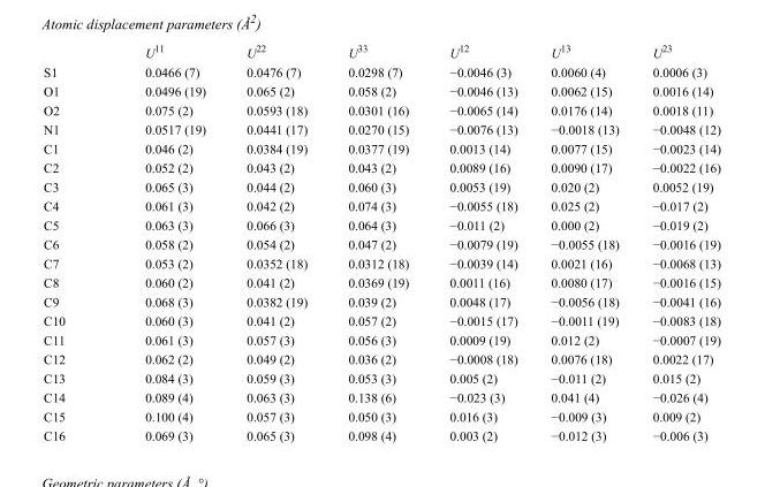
<table><thead><tr><td></td><td>U<sup>11</sup></td><td>U<sup>22</sup></td><td>U<sup>33</sup></td><td>U<sup>12</sup></td><td>U<sup>13</sup></td><td>U<sup>23</sup></td></tr></thead><tbody><tr><td>S1</td><td>0.0466 (7)</td><td>0.0476 (7)</td><td>0.0298 (7)</td><td>−0.0046 (3)</td><td>0.0060 (4)</td><td>0.0006 (3)</td></tr><tr><td>O1</td><td>0.0496 (19)</td><td>0.065 (2)</td><td>0.058 (2)</td><td>−0.0046 (13)</td><td>0.0062 (15)</td><td>0.0016 (14)</td></tr><tr><td>O2</td><td>0.075 (2)</td><td>0.0593 (18)</td><td>0.0301 (16)</td><td>−0.0065 (14)</td><td>0.0176 (14)</td><td>0.0018 (11)</td></tr><tr><td>N1</td><td>0.0517 (19)</td><td>0.0441 (17)</td><td>0.0270 (15)</td><td>−0.0076 (13)</td><td>−0.0018 (13)</td><td>−0.0048 (12)</td></tr><tr><td>C1</td><td>0.046 (2)</td><td>0.0384 (19)</td><td>0.0377 (19)</td><td>0.0013 (14)</td><td>0.0077 (15)</td><td>−0.0023 (14)</td></tr><tr><td>C2</td><td>0.052 (2)</td><td>0.043 (2)</td><td>0.043 (2)</td><td>0.0089 (16)</td><td>0.0090 (17)</td><td>−0.0022 (16)</td></tr><tr><td>C3</td><td>0.065 (3)</td><td>0.044 (2)</td><td>0.060 (3)</td><td>0.0053 (19)</td><td>0.020 (2)</td><td>0.0052 (19)</td></tr><tr><td>C4</td><td>0.061 (3)</td><td>0.042 (2)</td><td>0.074 (3)</td><td>−0.0055 (18)</td><td>0.025 (2)</td><td>−0.017 (2)</td></tr><tr><td>C5</td><td>0.063 (3)</td><td>0.066 (3)</td><td>0.064 (3)</td><td>−0.011 (2)</td><td>0.000 (2)</td><td>−0.019 (2)</td></tr><tr><td>C6</td><td>0.058 (2)</td><td>0.054 (2)</td><td>0.047 (2)</td><td>−0.0079 (19)</td><td>−0.0055 (18)</td><td>−0.0016 (19)</td></tr><tr><td>C7</td><td>0.053 (2)</td><td>0.0352 (18)</td><td>0.0312 (18)</td><td>−0.0039 (14)</td><td>0.0021 (16)</td><td>−0.0068 (13)</td></tr><tr><td>C8</td><td>0.060 (2)</td><td>0.041 (2)</td><td>0.0369 (19)</td><td>0.0011 (16)</td><td>0.0080 (17)</td><td>−0.0016 (15)</td></tr><tr><td>C9</td><td>0.068 (3)</td><td>0.0382 (19)</td><td>0.039 (2)</td><td>0.0048 (17)</td><td>−0.0056 (18)</td><td>−0.0041 (16)</td></tr><tr><td>C10</td><td>0.060 (3)</td><td>0.041 (2)</td><td>0.057 (2)</td><td>−0.0015 (17)</td><td>−0.0011 (19)</td><td>−0.0083 (18)</td></tr><tr><td>C11</td><td>0.061 (3)</td><td>0.057 (3)</td><td>0.056 (3)</td><td>0.0009 (19)</td><td>0.012 (2)</td><td>−0.0007 (19)</td></tr><tr><td>C12</td><td>0.062 (2)</td><td>0.049 (2)</td><td>0.036 (2)</td><td>−0.0008 (18)</td><td>0.0076 (18)</td><td>0.0022 (17)</td></tr><tr><td>C13</td><td>0.084 (3)</td><td>0.059 (3)</td><td>0.053 (3)</td><td>0.005 (2)</td><td>−0.011 (2)</td><td>0.015 (2)</td></tr><tr><td>C14</td><td>0.089 (4)</td><td>0.063 (3)</td><td>0.138 (6)</td><td>−0.023 (3)</td><td>0.041 (4)</td><td>−0.026 (4)</td></tr><tr><td>C15</td><td>0.100 (4)</td><td>0.057 (3)</td><td>0.050 (3)</td><td>0.016 (3)</td><td>−0.009 (3)</td><td>0.009 (2)</td></tr><tr><td>C16</td><td>0.069 (3)</td><td>0.065 (3)</td><td>0.098 (4)</td><td>0.003 (2)</td><td>−0.012 (3)</td><td>−0.006 (3)</td></tr></tbody></table>